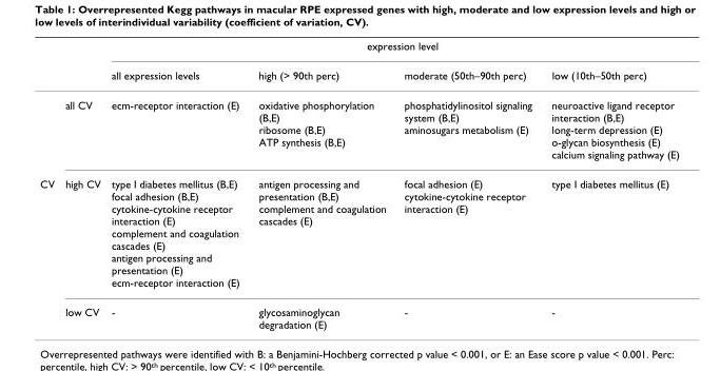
<table><thead><tr><td rowspan="2"></td><td rowspan="2"></td><td colspan="4">expression level</td></tr><tr><td>all expression levels</td><td>high (&gt; 90th perc)</td><td>moderate (50th–90th perc)</td><td>low (10th–50th perc)</td></tr></thead><tbody><tr><td></td><td>all CV</td><td>ecm-receptor interaction (E)</td><td>oxidative phosphorylation (B,E) ribosome (B,E) ATP synthesis (B,E)</td><td>phosphatidylinositol signaling system (B,E) aminosugars metabolism (E)</td><td>neuroactive ligand receptor interaction (B,E) long-term depression (E) o-glycan biosynthesis (E) calcium signaling pathway (E)</td></tr><tr><td rowspan="2">CV</td><td>high CV</td><td>type I diabetes mellitus (B,E) focal adhesion (B,E) cytokine-cytokine receptor interaction (E) complement and coagulation cascades (E) antigen processing and presentation (E) ecm-receptor interaction (E)</td><td>antigen processing and presentation (B,E) complement and coagulation cascades (E)</td><td>focal adhesion (E) cytokine-cytokine receptor interaction (E)</td><td>type I diabetes mellitus (E)</td></tr><tr><td>low CV</td><td>-</td><td>glycosaminoglycan degradation (E)</td><td>-</td><td>-</td></tr></tbody></table>